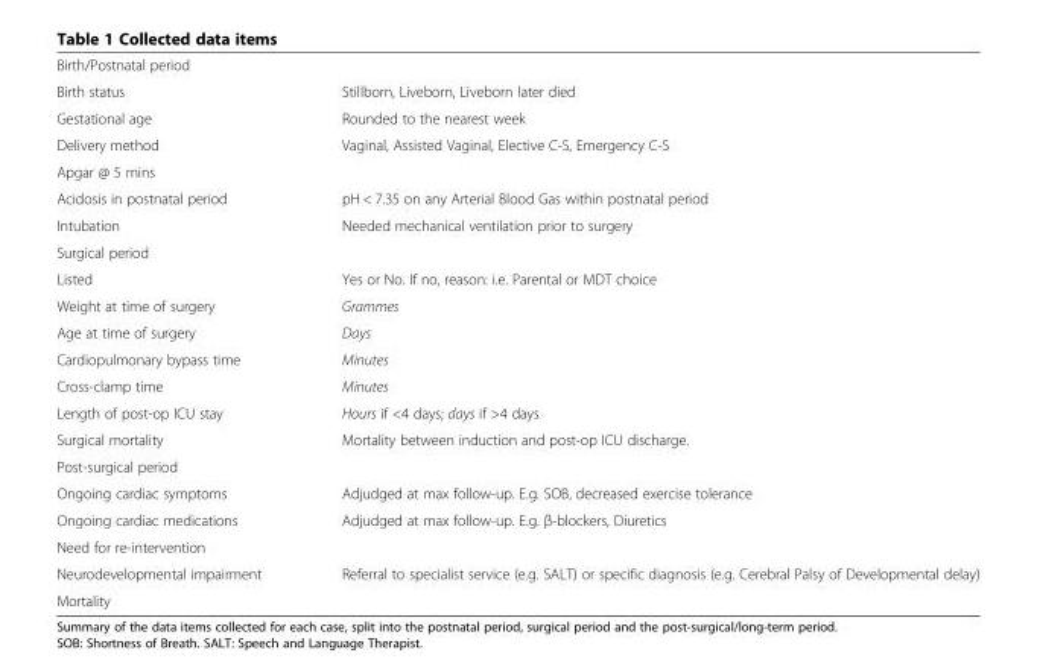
<table><tbody><tr><td colspan="2">Birth/Postnatal period</td></tr><tr><td>Birth status</td><td>Stillborn, Liveborn, Liveborn later died</td></tr><tr><td>Gestational age</td><td>Rounded to the nearest week</td></tr><tr><td>Delivery method</td><td>Vaginal, Assisted Vaginal, Elective C-S, Emergency C-S</td></tr><tr><td colspan="2">Apgar @ 5 mins</td></tr><tr><td>Acidosis in postnatal period</td><td>pH &lt; 7.35 on any Arterial Blood Gas within postnatal period</td></tr><tr><td>Intubation</td><td>Needed mechanical ventilation prior to surgery</td></tr><tr><td colspan="2">Surgical period</td></tr><tr><td>Listed</td><td>Yes or No. If no, reason: i.e. Parental or MDT choice</td></tr><tr><td>Weight at time of surgery</td><td>Grammes</td></tr><tr><td>Age at time of surgery</td><td>Days</td></tr><tr><td>Cardiopulmonary bypass time</td><td>Minutes</td></tr><tr><td>Cross-clamp time</td><td>Minutes</td></tr><tr><td>Length of post-op ICU stay</td><td>Hours if &lt;4 days; days if &gt;4 days</td></tr><tr><td>Surgical mortality</td><td>Mortality between induction and post-op ICU discharge.</td></tr><tr><td colspan="2">Post-surgical period</td></tr><tr><td>Ongoing cardiac symptoms</td><td>Adjudged at max follow-up. E.g. SOB, decreased exercise tolerance</td></tr><tr><td>Ongoing cardiac medications</td><td>Adjudged at max follow-up. E.g. β-blockers, Diuretics</td></tr><tr><td colspan="2">Need for re-intervention</td></tr><tr><td>Neurodevelopmental impairment</td><td>Referral to specialist service (e.g. SALT) or specific diagnosis (e.g. Cerebral Palsy of Developmental delay)</td></tr><tr><td>Mortality</td><td></td></tr></tbody></table>